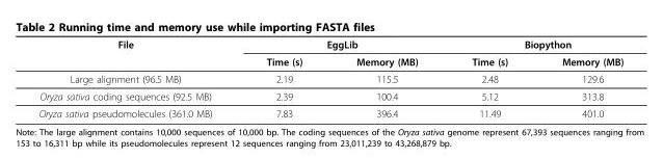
<table><thead><tr><td rowspan="2">File</td><td colspan="2">EggLib</td><td colspan="2">Biopython</td></tr><tr><td>Time (s)</td><td>Memory (MB)</td><td>Time (s)</td><td>Memory (MB)</td></tr></thead><tbody><tr><td>Large alignment (96.5 MB)</td><td>2.19</td><td>115.5</td><td>2.48</td><td>129.6</td></tr><tr><td>Oryza sativa coding sequences (92.5 MB)</td><td>2.39</td><td>100.4</td><td>5.12</td><td>313.8</td></tr><tr><td>Oryza sativa pseudomolecules (361.0 MB)</td><td>7.83</td><td>396.4</td><td>11.49</td><td>401.0</td></tr></tbody></table>